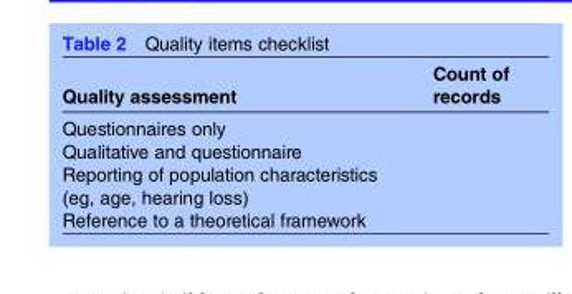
<table><thead><tr><td>Quality assessment</td><td>Count of records</td></tr></thead><tbody><tr><td colspan="2">Questionnaires only</td></tr><tr><td colspan="2">Qualitative and questionnaire</td></tr><tr><td colspan="2">Reporting of population characteristics (eg, age, hearing loss)</td></tr><tr><td>Reference to a theoretical framework</td><td></td></tr></tbody></table>